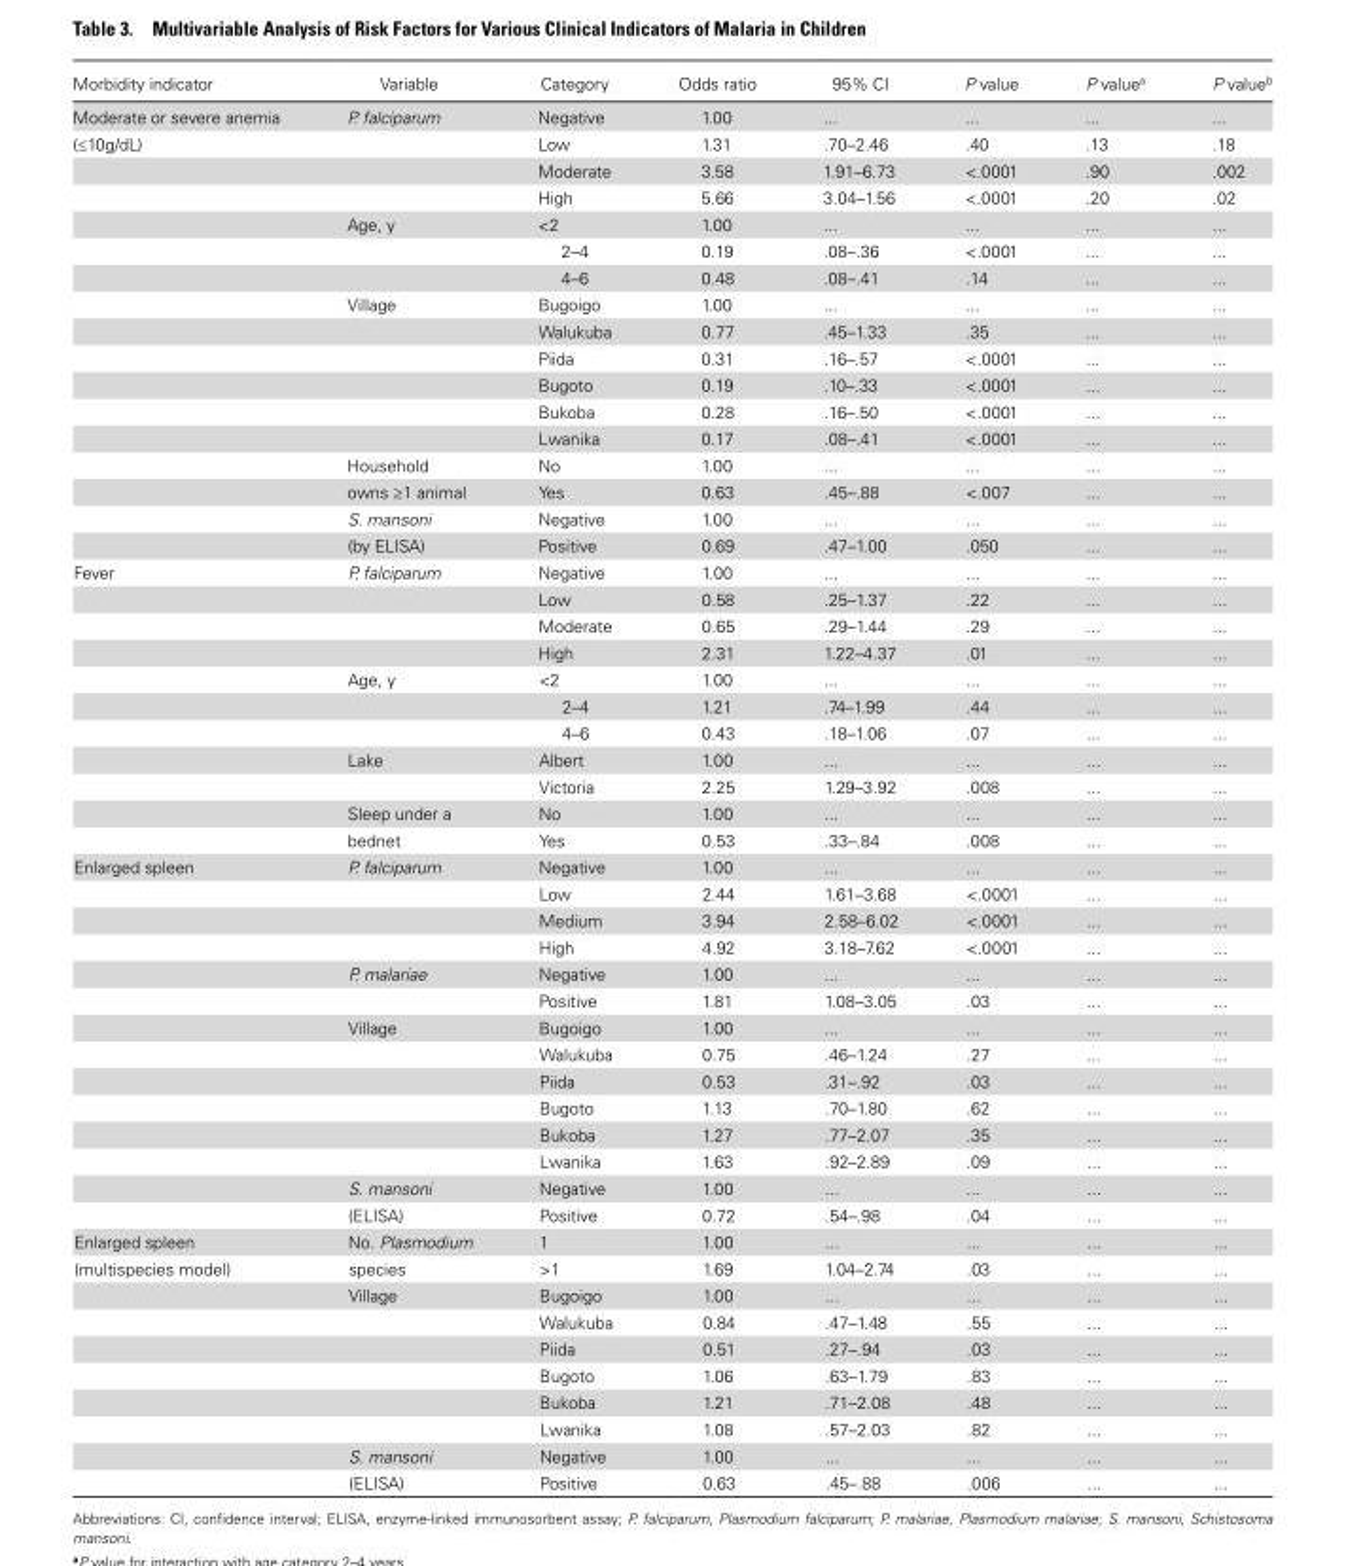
<table><thead><tr><td>Morbidity indicator</td><td>Variable</td><td>Category</td><td>Odds ratio</td><td>95% CI</td><td>P value</td><td>P value<sup>a</sup></td><td>P value<sup>b</sup></td></tr></thead><tbody><tr><td>Moderate or severe anemia</td><td>P. falciparum</td><td>Negative</td><td>1.00</td><td>...</td><td>...</td><td>...</td><td>...</td></tr><tr><td rowspan="16">(≤10g/dL)</td><td></td><td>Low</td><td>1.31</td><td>.70–2.46</td><td>.40</td><td>.13</td><td>.18</td></tr><tr><td></td><td>Moderate</td><td>3.58</td><td>1.91–6.73</td><td>&lt;.0001</td><td>.90</td><td>.002</td></tr><tr><td></td><td>High</td><td>5.66</td><td>3.04–1.56</td><td>&lt;.0001</td><td>.20</td><td>.02</td></tr><tr><td>Age, y</td><td>&lt;2</td><td>1.00</td><td>...</td><td>...</td><td>...</td><td>...</td></tr><tr><td></td><td>2–4</td><td>0.19</td><td>.08–.36</td><td>&lt;.0001</td><td>...</td><td>...</td></tr><tr><td></td><td>4–6</td><td>0.48</td><td>.08–.41</td><td>.14</td><td>...</td><td>...</td></tr><tr><td>Village</td><td>Bugoigo</td><td>1.00</td><td>...</td><td>...</td><td>...</td><td>...</td></tr><tr><td></td><td>Walukuba</td><td>0.77</td><td>.45–1.33</td><td>.35</td><td>...</td><td>...</td></tr><tr><td></td><td>Piida</td><td>0.31</td><td>.16–.57</td><td>&lt;.0001</td><td>...</td><td>...</td></tr><tr><td></td><td>Bugoto</td><td>0.19</td><td>.10–.33</td><td>&lt;.0001</td><td>...</td><td>...</td></tr><tr><td></td><td>Bukoba</td><td>0.28</td><td>.16–.50</td><td>&lt;.0001</td><td>...</td><td>...</td></tr><tr><td></td><td>Lwanika</td><td>0.17</td><td>.08–.41</td><td>&lt;.0001</td><td>...</td><td>...</td></tr><tr><td>Household</td><td>No</td><td>1.00</td><td>...</td><td>...</td><td>...</td><td>...</td></tr><tr><td>owns ≥1 animal</td><td>Yes</td><td>0.63</td><td>.45–.88</td><td>&lt;.007</td><td>...</td><td>...</td></tr><tr><td>S. mansoni</td><td>Negative</td><td>1.00</td><td>...</td><td>...</td><td>...</td><td>...</td></tr><tr><td>(by ELISA)</td><td>Positive</td><td>0.69</td><td>.47–1.00</td><td>.050</td><td>...</td><td>...</td></tr><tr><td rowspan="11">Fever</td><td>P. falciparum</td><td>Negative</td><td>1.00</td><td>...</td><td>...</td><td>...</td><td>...</td></tr><tr><td></td><td>Low</td><td>0.58</td><td>.25–1.37</td><td>.22</td><td>...</td><td>...</td></tr><tr><td></td><td>Moderate</td><td>0.65</td><td>.29–1.44</td><td>.29</td><td>...</td><td>...</td></tr><tr><td></td><td>High</td><td>2.31</td><td>1.22–4.37</td><td>.01</td><td>...</td><td>...</td></tr><tr><td>Age, y</td><td>&lt;2</td><td>1.00</td><td>...</td><td>...</td><td>...</td><td>...</td></tr><tr><td></td><td>2–4</td><td>1.21</td><td>.74–1.99</td><td>.44</td><td>...</td><td>...</td></tr><tr><td></td><td>4–6</td><td>0.43</td><td>.18–1.06</td><td>.07</td><td>...</td><td>...</td></tr><tr><td>Lake</td><td>Albert</td><td>1.00</td><td>...</td><td>...</td><td>...</td><td>...</td></tr><tr><td></td><td>Victoria</td><td>2.25</td><td>1.29–3.92</td><td>.008</td><td>...</td><td>...</td></tr><tr><td>Sleep under a</td><td>No</td><td>1.00</td><td>...</td><td>...</td><td>...</td><td>...</td></tr><tr><td>bednet</td><td>Yes</td><td>0.53</td><td>.33–.84</td><td>.008</td><td>...</td><td>...</td></tr><tr><td rowspan="14">Enlarged spleen</td><td>P. falciparum</td><td>Negative</td><td>1.00</td><td>...</td><td>...</td><td>...</td><td>...</td></tr><tr><td></td><td>Low</td><td>2.44</td><td>1.61–3.68</td><td>&lt;.0001</td><td>...</td><td>...</td></tr><tr><td></td><td>Medium</td><td>3.94</td><td>2.58–6.02</td><td>&lt;.0001</td><td>...</td><td>...</td></tr><tr><td></td><td>High</td><td>4.92</td><td>3.18–7.62</td><td>&lt;.0001</td><td>...</td><td>...</td></tr><tr><td>P. malariae</td><td>Negative</td><td>1.00</td><td>...</td><td>...</td><td>...</td><td>...</td></tr><tr><td></td><td>Positive</td><td>1.81</td><td>1.08–3.05</td><td>.03</td><td>...</td><td>...</td></tr><tr><td>Village</td><td>Bugoigo</td><td>1.00</td><td>...</td><td>...</td><td>...</td><td>...</td></tr><tr><td></td><td>Walukuba</td><td>0.75</td><td>.46–1.24</td><td>.27</td><td>...</td><td>...</td></tr><tr><td></td><td>Piida</td><td>0.53</td><td>.31–.92</td><td>.03</td><td>...</td><td>...</td></tr><tr><td></td><td>Bugoto</td><td>1.13</td><td>.70–1.80</td><td>.62</td><td>...</td><td>...</td></tr><tr><td></td><td>Bukoba</td><td>1.27</td><td>.77–2.07</td><td>.35</td><td>...</td><td>...</td></tr><tr><td></td><td>Lwanika</td><td>1.63</td><td>.92–2.89</td><td>.09</td><td>...</td><td>...</td></tr><tr><td>S. mansoni</td><td>Negative</td><td>1.00</td><td>...</td><td>...</td><td>...</td><td>...</td></tr><tr><td>(ELISA)</td><td>Positive</td><td>0.72</td><td>.54–.98</td><td>.04</td><td>...</td><td>...</td></tr><tr><td>Enlarged spleen</td><td>No. Plasmodium</td><td>1</td><td>1.00</td><td>...</td><td>...</td><td>...</td><td>...</td></tr><tr><td rowspan="9">(multispecies model)</td><td>species</td><td>&gt;1</td><td>1.69</td><td>1.04–2.74</td><td>.03</td><td>...</td><td>...</td></tr><tr><td>Village</td><td>Bugoigo</td><td>1.00</td><td>...</td><td>...</td><td>...</td><td>...</td></tr><tr><td></td><td>Walukuba</td><td>0.84</td><td>.47–1.48</td><td>.55</td><td>...</td><td>...</td></tr><tr><td></td><td>Piida</td><td>0.51</td><td>.27–.94</td><td>.03</td><td>...</td><td>...</td></tr><tr><td></td><td>Bugoto</td><td>1.06</td><td>.63–1.79</td><td>.83</td><td>...</td><td>...</td></tr><tr><td></td><td>Bukoba</td><td>1.21</td><td>.71–2.08</td><td>.48</td><td>...</td><td>...</td></tr><tr><td></td><td>Lwanika</td><td>1.08</td><td>.57–2.03</td><td>.82</td><td>...</td><td>...</td></tr><tr><td>S. mansoni</td><td>Negative</td><td>1.00</td><td>...</td><td>...</td><td>...</td><td>...</td></tr><tr><td>(ELISA)</td><td>Positive</td><td>0.63</td><td>.45–.88</td><td>.006</td><td>...</td><td>...</td></tr></tbody></table>